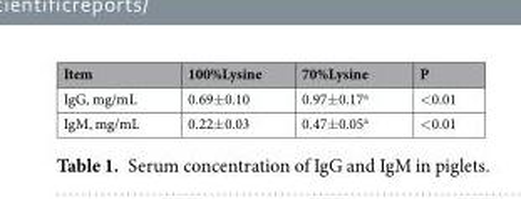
<table><thead><tr><td>Item</td><td>100%Lysine</td><td>70%Lysine</td><td>P</td></tr></thead><tbody><tr><td>IgG, mg/mL</td><td>0.69±0.10</td><td>0.97±0.17<sup>a</sup></td><td>&lt;0.01</td></tr><tr><td>IgM, mg/mL</td><td>0.22±0.03</td><td>0.47±0.05<sup>a</sup></td><td>&lt;0.01</td></tr></tbody></table>